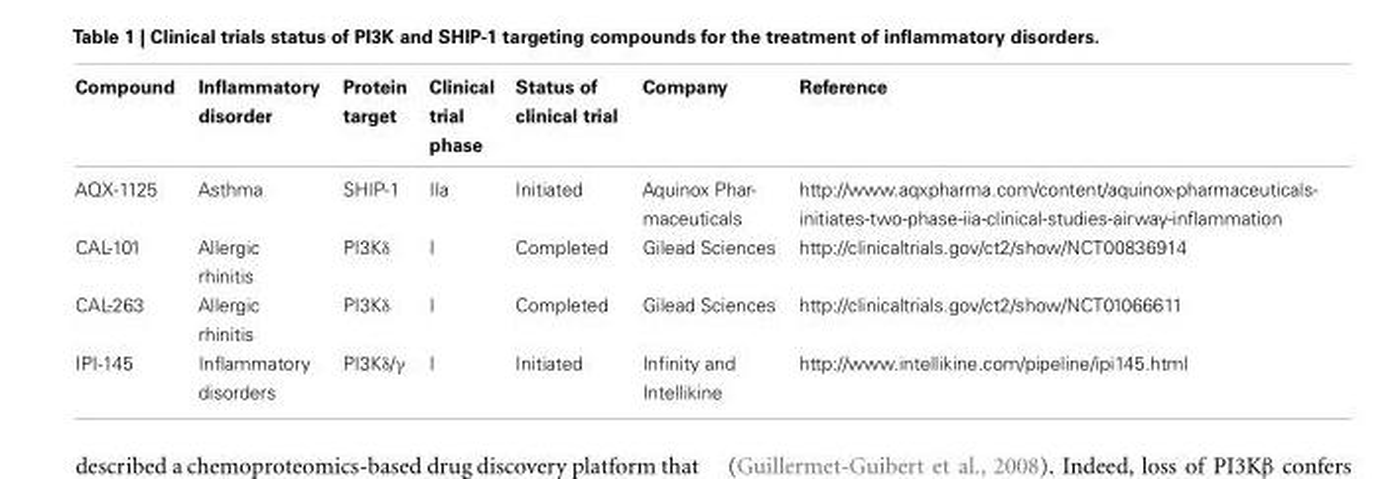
<table><thead><tr><td>Compound</td><td>Inflammatory disorder</td><td>Protein target</td><td>Clinical trial phase</td><td>Status of clinical trial</td><td>Company</td><td>Reference</td></tr></thead><tbody><tr><td>AQX-1125</td><td>Asthma</td><td>SHIP-1</td><td>IIa</td><td>Initiated</td><td>Aquinox Phar- maceuticals</td><td>http://www.aqxpharma.com/content/aquinox-pharmaceuticals- initiates-two-phase-iia-clinical-studies-airway-inflammation</td></tr><tr><td>CAL-101</td><td>Allergic rhinitis</td><td>PI3Kδ</td><td>I</td><td>Completed</td><td>Gilead Sciences</td><td>http://clinicaltrials.gov/ct2/show/NCT00836914</td></tr><tr><td>CAL-263</td><td>Allergic rhinitis</td><td>PI3Kδ</td><td>I</td><td>Completed</td><td>Gilead Sciences</td><td>http://clinicaltrials.gov/ct2/show/NCT01066611</td></tr><tr><td>IPI-145</td><td>Inflammatory disorders</td><td>PI3Kδ/γ</td><td>I</td><td>Initiated</td><td>Infinity and Intellikine</td><td>http://www.intellikine.com/pipeline/ipi145.html</td></tr></tbody></table>